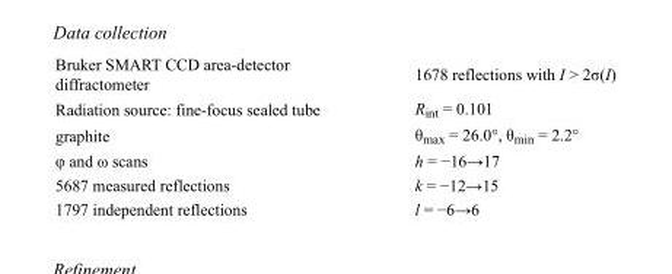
<table><tbody><tr><td>Bruker SMART CCD area-detector diffractometer</td><td>1678 reflections with I &gt; 2σ(I)</td></tr><tr><td>Radiation source: fine-focus sealed tube</td><td>R<sub>int</sub> = 0.101</td></tr><tr><td>graphite</td><td>θ<sub>max</sub> = 26.0°, θ<sub>min</sub> = 2.2°</td></tr><tr><td>φ and ω scans</td><td>h = −16→17</td></tr><tr><td>5687 measured reflections</td><td>k = −12→15</td></tr><tr><td>1797 independent reflections</td><td>l = −6→6</td></tr></tbody></table>